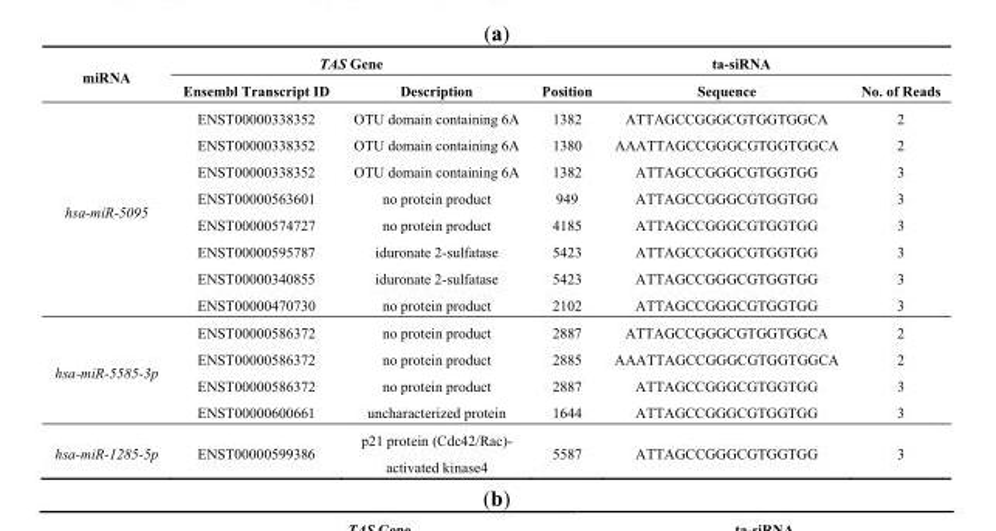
<table><thead><tr><td rowspan="2">miRNA</td><td colspan="2">TAS Gene</td><td colspan="3">ta-siRNA</td></tr><tr><td>Ensembl Transcript ID</td><td>Description</td><td>Position</td><td>Sequence</td><td>No. of Reads</td></tr></thead><tbody><tr><td rowspan="8">hsa-miR-5095</td><td>ENST00000338352</td><td>OTU domain containing 6A</td><td>1382</td><td>ATTAGCCGGGCGTGGTGGCA</td><td>2</td></tr><tr><td>ENST00000338352</td><td>OTU domain containing 6A</td><td>1380</td><td>AAATTAGCCGGGCGTGGTGGCA</td><td>2</td></tr><tr><td>ENST00000338352</td><td>OTU domain containing 6A</td><td>1382</td><td>ATTAGCCGGGCGTGGTGG</td><td>3</td></tr><tr><td>ENST00000563601</td><td>no protein product</td><td>949</td><td>ATTAGCCGGGCGTGGTGG</td><td>3</td></tr><tr><td>ENST00000574727</td><td>no protein product</td><td>4185</td><td>ATTAGCCGGGCGTGGTGG</td><td>3</td></tr><tr><td>ENST00000595787</td><td>iduronate 2-sulfatase</td><td>5423</td><td>ATTAGCCGGGCGTGGTGG</td><td>3</td></tr><tr><td>ENST00000340855</td><td>iduronate 2-sulfatase</td><td>5423</td><td>ATTAGCCGGGCGTGGTGG</td><td>3</td></tr><tr><td>ENST00000470730</td><td>no protein product</td><td>2102</td><td>ATTAGCCGGGCGTGGTGG</td><td>3</td></tr><tr><td rowspan="4">hsa-miR-5585-3p</td><td>ENST00000586372</td><td>no protein product</td><td>2887</td><td>ATTAGCCGGGCGTGGTGGCA</td><td>2</td></tr><tr><td>ENST00000586372</td><td>no protein product</td><td>2885</td><td>AAATTAGCCGGGCGTGGTGGCA</td><td>2</td></tr><tr><td>ENST00000586372</td><td>no protein product</td><td>2887</td><td>ATTAGCCGGGCGTGGTGG</td><td>3</td></tr><tr><td>ENST00000600661</td><td>uncharacterized protein</td><td>1644</td><td>ATTAGCCGGGCGTGGTGG</td><td>3</td></tr><tr><td>hsa-miR-1285-5p</td><td>ENST00000599386</td><td>p21 protein (Cdc42/Rac)- activated kinase4</td><td>5587</td><td>ATTAGCCGGGCGTGGTGG</td><td>3</td></tr></tbody></table>